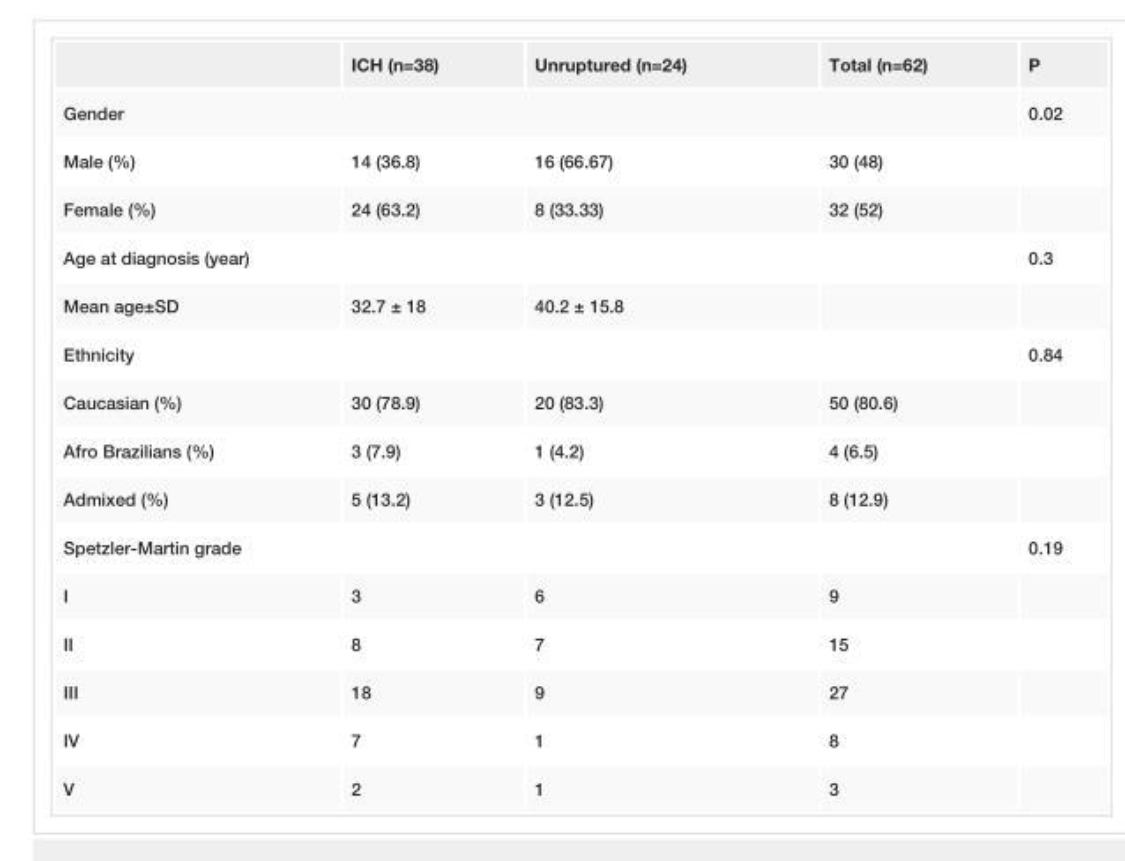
<table><thead><tr><td></td><td>ICH (n=38)</td><td>Unruptured (n=24)</td><td>Total (n=62)</td><td>P</td></tr></thead><tbody><tr><td colspan="4">Gender</td><td>0.02</td></tr><tr><td>Male (%)</td><td>14 (36.8)</td><td>16 (66.67)</td><td>30 (48)</td><td></td></tr><tr><td>Female (%)</td><td>24 (63.2)</td><td>8 (33.33)</td><td>32 (52)</td><td></td></tr><tr><td colspan="4">Age at diagnosis (year)</td><td>0.3</td></tr><tr><td>Mean age±SD</td><td>32.7 ± 18</td><td>40.2 ± 15.8</td><td></td><td></td></tr><tr><td colspan="4">Ethnicity</td><td>0.84</td></tr><tr><td>Caucasian (%)</td><td>30 (78.9)</td><td>20 (83.3)</td><td>50 (80.6)</td><td></td></tr><tr><td>Afro Brazilians (%)</td><td>3 (7.9)</td><td>1 (4.2)</td><td>4 (6.5)</td><td></td></tr><tr><td>Admixed (%)</td><td>5 (13.2)</td><td>3 (12.5)</td><td>8 (12.9)</td><td></td></tr><tr><td colspan="4">Spetzler-Martin grade</td><td>0.19</td></tr><tr><td>I</td><td>3</td><td>6</td><td>9</td><td></td></tr><tr><td>II</td><td>8</td><td>7</td><td>15</td><td></td></tr><tr><td>III</td><td>18</td><td>9</td><td>27</td><td></td></tr><tr><td>IV</td><td>7</td><td>1</td><td>8</td><td></td></tr><tr><td>V</td><td>2</td><td>1</td><td>3</td><td></td></tr></tbody></table>